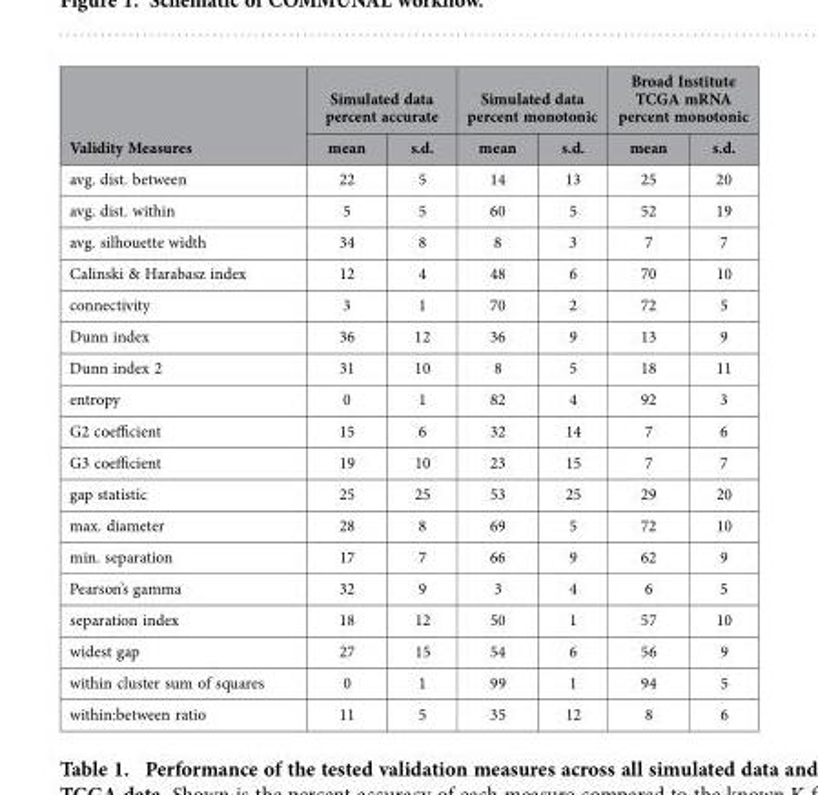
<table><thead><tr><td rowspan="2">Validity Measures</td><td colspan="2">Simulated data percent accurate</td><td colspan="2">Simulated data percent monotonic</td><td colspan="2">Broad Institute TCGA mRNA percent monotonic</td></tr><tr><td>mean</td><td>s.d.</td><td>mean</td><td>s.d.</td><td>mean</td><td>s.d.</td></tr></thead><tbody><tr><td>avg. dist. between</td><td>22</td><td>5</td><td>14</td><td>13</td><td>25</td><td>20</td></tr><tr><td>avg. dist. within</td><td>5</td><td>5</td><td>60</td><td>5</td><td>52</td><td>19</td></tr><tr><td>avg. silhouette width</td><td>34</td><td>8</td><td>8</td><td>3</td><td>7</td><td>7</td></tr><tr><td>Calinski &amp; Harabasz index</td><td>12</td><td>4</td><td>48</td><td>6</td><td>70</td><td>10</td></tr><tr><td>connectivity</td><td>3</td><td>1</td><td>70</td><td>2</td><td>72</td><td>5</td></tr><tr><td>Dunn index</td><td>36</td><td>12</td><td>36</td><td>9</td><td>13</td><td>9</td></tr><tr><td>Dunn index 2</td><td>31</td><td>10</td><td>8</td><td>5</td><td>18</td><td>11</td></tr><tr><td>entropy</td><td>0</td><td>1</td><td>82</td><td>4</td><td>92</td><td>3</td></tr><tr><td>G2 coefficient</td><td>15</td><td>6</td><td>32</td><td>14</td><td>7</td><td>6</td></tr><tr><td>G3 coefficient</td><td>19</td><td>10</td><td>23</td><td>15</td><td>7</td><td>7</td></tr><tr><td>gap statistic</td><td>25</td><td>25</td><td>53</td><td>25</td><td>29</td><td>20</td></tr><tr><td>max. diameter</td><td>28</td><td>8</td><td>69</td><td>5</td><td>72</td><td>10</td></tr><tr><td>min. separation</td><td>17</td><td>7</td><td>66</td><td>9</td><td>62</td><td>9</td></tr><tr><td>Pearson’s gamma</td><td>32</td><td>9</td><td>3</td><td>4</td><td>6</td><td>5</td></tr><tr><td>separation index</td><td>18</td><td>12</td><td>50</td><td>1</td><td>57</td><td>10</td></tr><tr><td>widest gap</td><td>27</td><td>15</td><td>54</td><td>6</td><td>56</td><td>9</td></tr><tr><td>within cluster sum of squares</td><td>0</td><td>1</td><td>99</td><td>1</td><td>94</td><td>5</td></tr><tr><td>within:between ratio</td><td>11</td><td>5</td><td>35</td><td>12</td><td>8</td><td>6</td></tr></tbody></table>